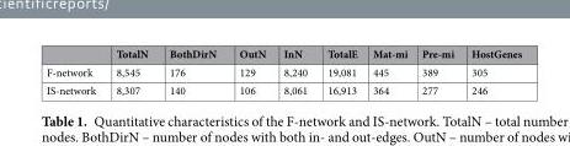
<table><thead><tr><td></td><td>TotalN</td><td>BothDirN</td><td>OutN</td><td>InN</td><td>TotalE</td><td>Mat-mi</td><td>Pre-mi</td><td>HostGenes</td></tr></thead><tbody><tr><td>F-network</td><td>8,545</td><td>176</td><td>129</td><td>8,240</td><td>19,081</td><td>445</td><td>389</td><td>305</td></tr><tr><td>IS-network</td><td>8,307</td><td>140</td><td>106</td><td>8,061</td><td>16,913</td><td>364</td><td>277</td><td>246</td></tr></tbody></table>